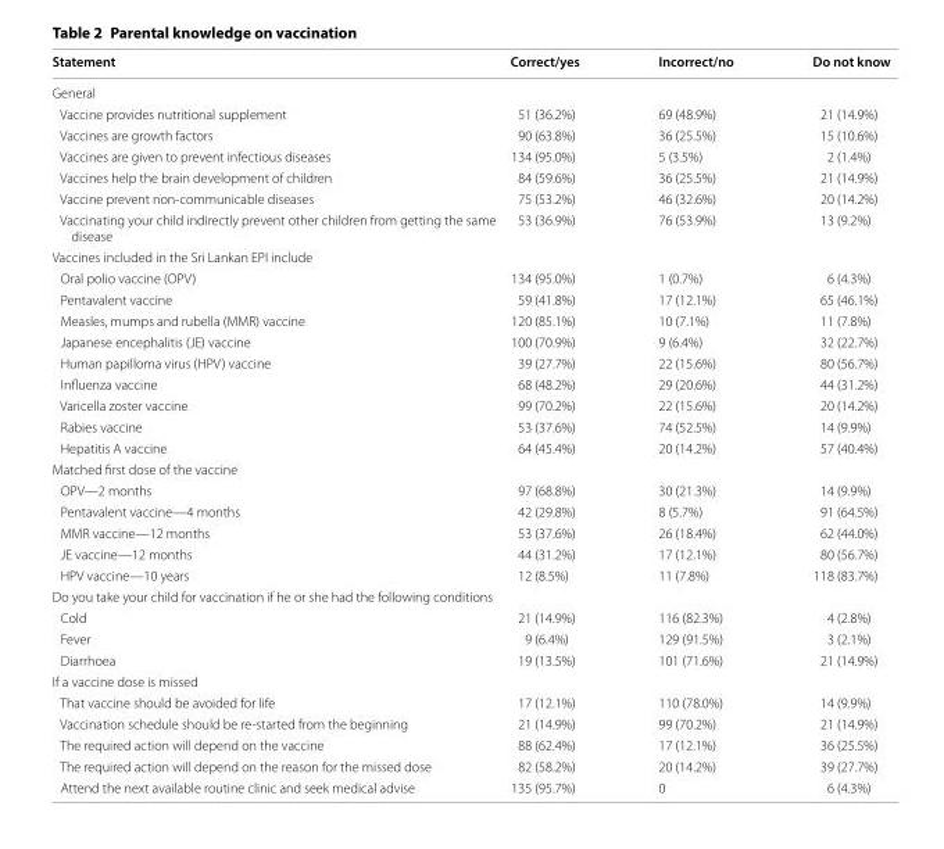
<table><thead><tr><td>Statement</td><td>Correct/yes</td><td>Incorrect/no</td><td>Do not know</td></tr></thead><tbody><tr><td colspan="4">General</td></tr><tr><td>Vaccine provides nutritional supplement</td><td>51 (36.2%)</td><td>69 (48.9%)</td><td>21 (14.9%)</td></tr><tr><td>Vaccines are growth factors</td><td>90 (63.8%)</td><td>36 (25.5%)</td><td>15 (10.6%)</td></tr><tr><td>Vaccines are given to prevent infectious diseases</td><td>134 (95.0%)</td><td>5 (3.5%)</td><td>2 (1.4%)</td></tr><tr><td>Vaccines help the brain development of children</td><td>84 (59.6%)</td><td>36 (25.5%)</td><td>21 (14.9%)</td></tr><tr><td>Vaccine prevent non-communicable diseases</td><td>75 (53.2%)</td><td>46 (32.6%)</td><td>20 (14.2%)</td></tr><tr><td>Vaccinating your child indirectly prevent other children from getting the same disease</td><td>53 (36.9%)</td><td>76 (53.9%)</td><td>13 (9.2%)</td></tr><tr><td colspan="4">Vaccines included in the Sri Lankan EPI include</td></tr><tr><td>Oral polio vaccine (OPV)</td><td>134 (95.0%)</td><td>1 (0.7%)</td><td>6 (4.3%)</td></tr><tr><td>Pentavalent vaccine</td><td>59 (41.8%)</td><td>17 (12.1%)</td><td>65 (46.1%)</td></tr><tr><td>Measles, mumps and rubella (MMR) vaccine</td><td>120 (85.1%)</td><td>10 (7.1%)</td><td>11 (7.8%)</td></tr><tr><td>Japanese encephalitis (JE) vaccine</td><td>100 (70.9%)</td><td>9 (6.4%)</td><td>32 (22.7%)</td></tr><tr><td>Human papilloma virus (HPV) vaccine</td><td>39 (27.7%)</td><td>22 (15.6%)</td><td>80 (56.7%)</td></tr><tr><td>Influenza vaccine</td><td>68 (48.2%)</td><td>29 (20.6%)</td><td>44 (31.2%)</td></tr><tr><td>Varicella zoster vaccine</td><td>99 (70.2%)</td><td>22 (15.6%)</td><td>20 (14.2%)</td></tr><tr><td>Rabies vaccine</td><td>53 (37.6%)</td><td>74 (52.5%)</td><td>14 (9.9%)</td></tr><tr><td>Hepatitis A vaccine</td><td>64 (45.4%)</td><td>20 (14.2%)</td><td>57 (40.4%)</td></tr><tr><td colspan="4">Matched first dose of the vaccine</td></tr><tr><td>OPV—2 months</td><td>97 (68.8%)</td><td>30 (21.3%)</td><td>14 (9.9%)</td></tr><tr><td>Pentavalent vaccine—4 months</td><td>42 (29.8%)</td><td>8 (5.7%)</td><td>91 (64.5%)</td></tr><tr><td>MMR vaccine—12 months</td><td>53 (37.6%)</td><td>26 (18.4%)</td><td>62 (44.0%)</td></tr><tr><td>JE vaccine—12 months</td><td>44 (31.2%)</td><td>17 (12.1%)</td><td>80 (56.7%)</td></tr><tr><td>HPV vaccine—10 years</td><td>12 (8.5%)</td><td>11 (7.8%)</td><td>118 (83.7%)</td></tr><tr><td colspan="4">Do you take your child for vaccination if he or she had the following conditions</td></tr><tr><td>Cold</td><td>21 (14.9%)</td><td>116 (82.3%)</td><td>4 (2.8%)</td></tr><tr><td>Fever</td><td>9 (6.4%)</td><td>129 (91.5%)</td><td>3 (2.1%)</td></tr><tr><td>Diarrhoea</td><td>19 (13.5%)</td><td>101 (71.6%)</td><td>21 (14.9%)</td></tr><tr><td colspan="4">If a vaccine dose is missed</td></tr><tr><td>That vaccine should be avoided for life</td><td>17 (12.1%)</td><td>110 (78.0%)</td><td>14 (9.9%)</td></tr><tr><td>Vaccination schedule should be re-started from the beginning</td><td>21 (14.9%)</td><td>99 (70.2%)</td><td>21 (14.9%)</td></tr><tr><td>The required action will depend on the vaccine</td><td>88 (62.4%)</td><td>17 (12.1%)</td><td>36 (25.5%)</td></tr><tr><td>The required action will depend on the reason for the missed dose</td><td>82 (58.2%)</td><td>20 (14.2%)</td><td>39 (27.7%)</td></tr><tr><td>Attend the next available routine clinic and seek medical advise</td><td>135 (95.7%)</td><td>0</td><td>6 (4.3%)</td></tr></tbody></table>